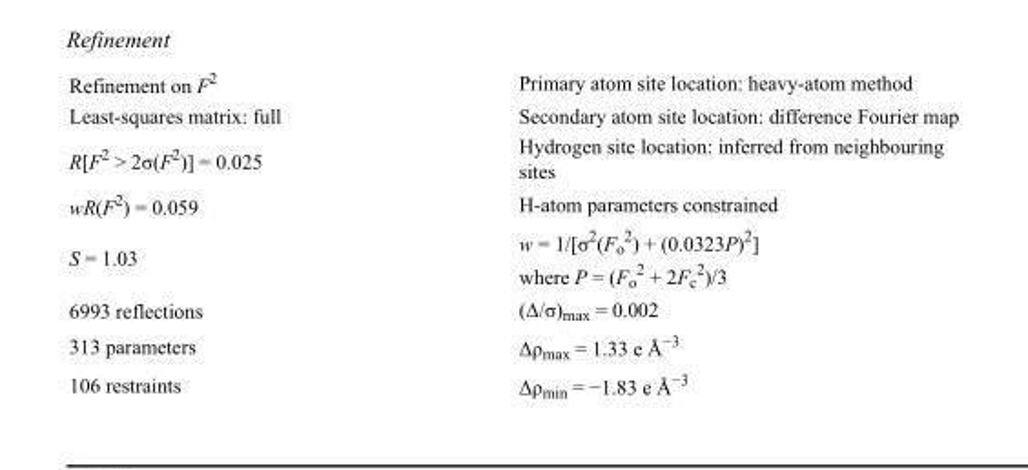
<table><tbody><tr><td>Refinement on F<sup>2</sup></td><td>Primary atom site location: heavy-atom method</td></tr><tr><td>Least-squares matrix: full</td><td>Secondary atom site location: difference Fourier map</td></tr><tr><td>R[F<sup>2</sup> &gt; 2σ(F<sup>2</sup>)] = 0.025</td><td>Hydrogen site location: inferred from neighbouring sites</td></tr><tr><td>wR(F<sup>2</sup>) = 0.059</td><td>H-atom parameters constrained</td></tr><tr><td>S = 1.03</td><td>w = 1/[σ<sup>2</sup>(F<sub>o</sub> <sup>2</sup>) + (0.0323P)<sup>2</sup>] where P = (F<sub>o</sub> <sup>2</sup> + 2F<sub>c</sub> <sup>2</sup>)/3</td></tr><tr><td>6993 reflections</td><td>(Δ/σ)<sub>max</sub> = 0.002</td></tr><tr><td>313 parameters</td><td>Δρ<sub>max</sub> = 1.33 e Å<sup>−3</sup></td></tr><tr><td>106 restraints</td><td>Δρ<sub>min</sub> = −1.83 e Å<sup>−3</sup></td></tr></tbody></table>